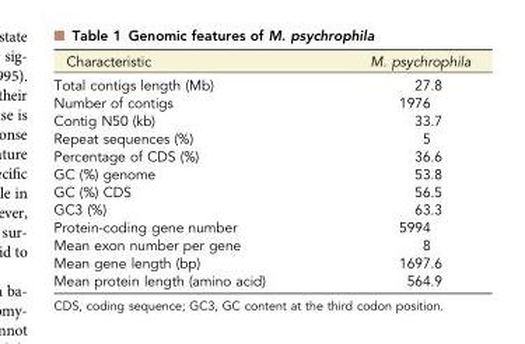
<table><thead><tr><td>Characteristic</td><td>M. psychrophila</td></tr></thead><tbody><tr><td>Total contigs length (Mb)</td><td>27.8</td></tr><tr><td>Number of contigs</td><td>1976</td></tr><tr><td>Contig N50 (kb)</td><td>33.7</td></tr><tr><td>Repeat sequences (%)</td><td>5</td></tr><tr><td>Percentage of CDS (%)</td><td>36.6</td></tr><tr><td>GC (%) genome</td><td>53.8</td></tr><tr><td>GC (%) CDS</td><td>56.5</td></tr><tr><td>GC3 (%)</td><td>63.3</td></tr><tr><td>Protein-coding gene number</td><td>5994</td></tr><tr><td>Mean exon number per gene</td><td>8</td></tr><tr><td>Mean gene length (bp)</td><td>1697.6</td></tr><tr><td>Mean protein length (amino acid)</td><td>564.9</td></tr></tbody></table>